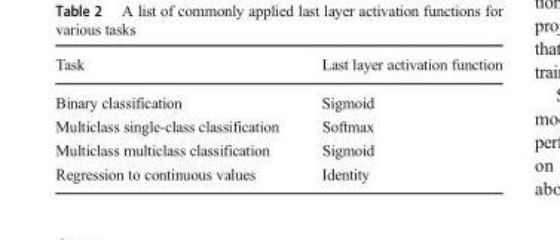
<table><thead><tr><td>Task</td><td>Last layer activation function</td></tr></thead><tbody><tr><td>Binary classification</td><td>Sigmoid</td></tr><tr><td>Multiclass single-class classification</td><td>Softmax</td></tr><tr><td>Multiclass multiclass classification</td><td>Sigmoid</td></tr><tr><td>Regression to continuous values</td><td>Identity</td></tr></tbody></table>